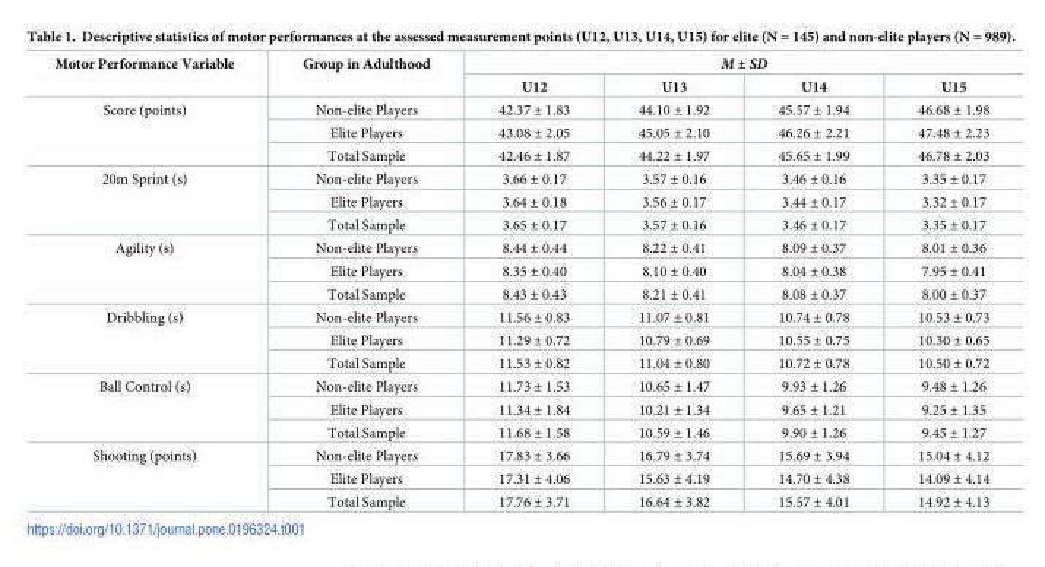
<table><thead><tr><td rowspan="2">Motor Performance Variable</td><td rowspan="2">Group in Adulthood</td><td colspan="4">M ± SD</td></tr><tr><td>U12</td><td>U13</td><td>U14</td><td>U15</td></tr></thead><tbody><tr><td rowspan="3">Score (points)</td><td>Non-elite Players</td><td>42.37 ± 1.83</td><td>44.10 ± 1.92</td><td>45.57 ± 1.94</td><td>46.68 ± 1.98</td></tr><tr><td>Elite Players</td><td>43.08 ± 2.05</td><td>45.05 ± 2.10</td><td>46.26 ± 2.21</td><td>47.48 ± 2.23</td></tr><tr><td>Total Sample</td><td>42.46 ± 1.87</td><td>44.22 ± 1.97</td><td>45.65 ± 1.99</td><td>46.78 ± 2.03</td></tr><tr><td rowspan="3">20m Sprint (s)</td><td>Non-elite Players</td><td>3.66 ± 0.17</td><td>3.57 ± 0.16</td><td>3.46 ± 0.16</td><td>3.35 ± 0.17</td></tr><tr><td>Elite Players</td><td>3.64 ± 0.18</td><td>3.56 ± 0.17</td><td>3.44 ± 0.17</td><td>3.32 ± 0.17</td></tr><tr><td>Total Sample</td><td>3.65 ± 0.17</td><td>3.57 ± 0.16</td><td>3.46 ± 0.17</td><td>3.35 ± 0.17</td></tr><tr><td rowspan="3">Agility (s)</td><td>Non-elite Players</td><td>8.44 ± 0.44</td><td>8.22 ± 0.41</td><td>8.09 ± 0.37</td><td>8.01 ± 0.36</td></tr><tr><td>Elite Players</td><td>8.35 ± 0.40</td><td>8.10 ± 0.40</td><td>8.04 ± 0.38</td><td>7.95 ± 0.41</td></tr><tr><td>Total Sample</td><td>8.43 ± 0.43</td><td>8.21 ± 0.41</td><td>8.08 ± 0.37</td><td>8.00 ± 0.37</td></tr><tr><td rowspan="3">Dribbling (s)</td><td>Non-elite Players</td><td>11.56 ± 0.83</td><td>11.07 ± 0.81</td><td>10.74 ± 0.78</td><td>10.53 ± 0.73</td></tr><tr><td>Elite Players</td><td>11.29 ± 0.72</td><td>10.79 ± 0.69</td><td>10.55 ± 0.75</td><td>10.30 ± 0.65</td></tr><tr><td>Total Sample</td><td>11.53 ± 0.82</td><td>11.04 ± 0.80</td><td>10.72 ± 0.78</td><td>10.50 ± 0.72</td></tr><tr><td rowspan="3">Ball Control (s)</td><td>Non-elite Players</td><td>11.73 ± 1.53</td><td>10.65 ± 1.47</td><td>9.93 ± 1.26</td><td>9.48 ± 1.26</td></tr><tr><td>Elite Players</td><td>11.34 ± 1.84</td><td>10.21 ± 1.34</td><td>9.65 ± 1.21</td><td>9.25 ± 1.35</td></tr><tr><td>Total Sample</td><td>11.68 ± 1.58</td><td>10.59 ± 1.46</td><td>9.90 ± 1.26</td><td>9.45 ± 1.27</td></tr><tr><td rowspan="3">Shooting (points)</td><td>Non-elite Players</td><td>17.83 ± 3.66</td><td>16.79 ± 3.74</td><td>15.69 ± 3.94</td><td>15.04 ± 4.12</td></tr><tr><td>Elite Players</td><td>17.31 ± 4.06</td><td>15.63 ± 4.19</td><td>14.70 ± 4.38</td><td>14.09 ± 4.14</td></tr><tr><td>Total Sample</td><td>17.76 ± 3.71</td><td>16.64 ± 3.82</td><td>15.57 ± 4.01</td><td>14.92 ± 4.13</td></tr></tbody></table>